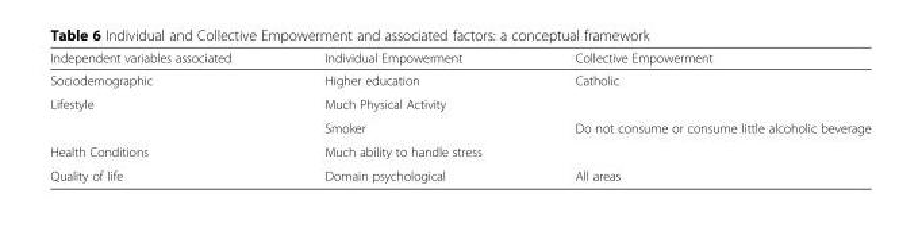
<table><thead><tr><td>Independent variables associated</td><td>Individual Empowerment</td><td>Collective Empowerment</td></tr></thead><tbody><tr><td>Sociodemographic</td><td>Higher education</td><td>Catholic</td></tr><tr><td rowspan="2">Lifestyle</td><td colspan="2">Much Physical Activity</td></tr><tr><td>Smoker</td><td>Do not consume or consume little alcoholic beverage</td></tr><tr><td>Health Conditions</td><td>Much ability to handle stress</td><td></td></tr><tr><td>Quality of life</td><td>Domain psychological</td><td>All areas</td></tr></tbody></table>